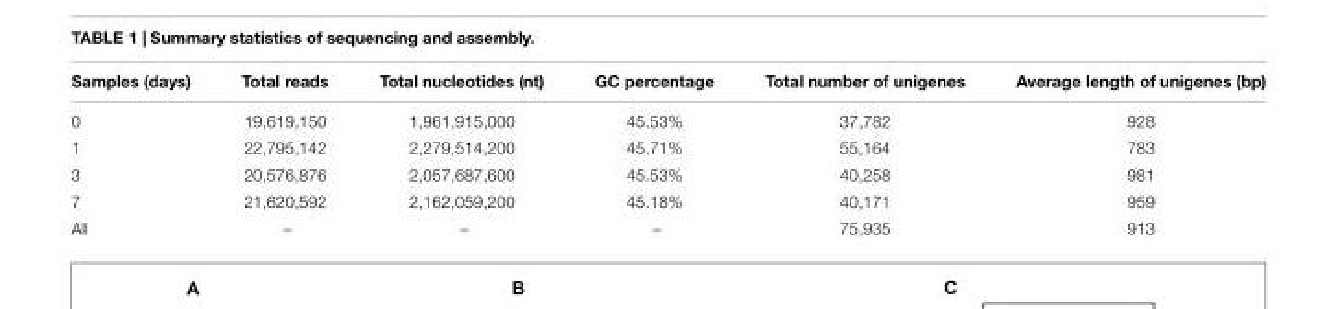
<table><thead><tr><td>Samples (days)</td><td>Total reads</td><td>Total nucleotides (nt)</td><td>GC percentage</td><td>Total number of unigenes</td><td>Average length of unigenes (bp)</td></tr></thead><tbody><tr><td>0</td><td>19,619,150</td><td>1,961,915,000</td><td>45.53%</td><td>37,782</td><td>928</td></tr><tr><td>1</td><td>22,795,142</td><td>2,279,514,200</td><td>45.71%</td><td>55,164</td><td>783</td></tr><tr><td>3</td><td>20,576,876</td><td>2,057,687,600</td><td>45.53%</td><td>40,258</td><td>981</td></tr><tr><td>7</td><td>21,620,592</td><td>2,162,059,200</td><td>45.18%</td><td>40,171</td><td>959</td></tr><tr><td>All</td><td>–</td><td>–</td><td>–</td><td>75,935</td><td>913</td></tr></tbody></table>